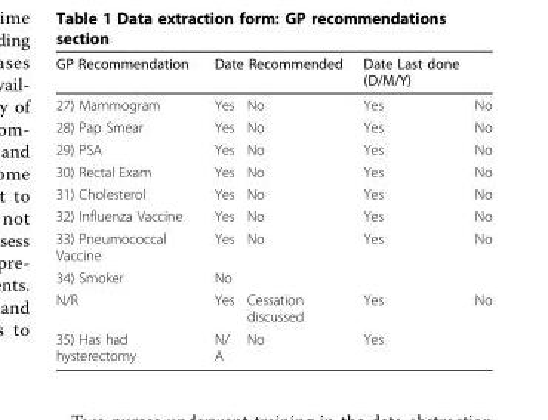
<table><thead><tr><td rowspan="2">GP Recommendation 27) Mammogram</td><td colspan="2">Date Recommended</td><td rowspan="2">Date Last done (D/M/Y) Yes</td><td rowspan="2">No</td></tr><tr><td>Yes</td><td>No</td></tr></thead><tbody><tr><td>28) Pap Smear</td><td>Yes</td><td>No</td><td>Yes</td><td>No</td></tr><tr><td>29) PSA</td><td>Yes</td><td>No</td><td>Yes</td><td>No</td></tr><tr><td>30) Rectal Exam</td><td>Yes</td><td>No</td><td>Yes</td><td>No</td></tr><tr><td>31) Cholesterol</td><td>Yes</td><td>No</td><td>Yes</td><td>No</td></tr><tr><td>32) Influenza Vaccine</td><td>Yes</td><td>No</td><td>Yes</td><td>No</td></tr><tr><td>33) Pneumococcal Vaccine</td><td>Yes</td><td>No</td><td>Yes</td><td>No</td></tr><tr><td>34) Smoker</td><td>No</td><td></td><td></td><td></td></tr><tr><td>N/R</td><td>Yes</td><td>Cessation discussed</td><td>Yes</td><td>No</td></tr><tr><td>35) Has had hysterectomy</td><td>N/ A</td><td>No</td><td>Yes</td><td></td></tr></tbody></table>